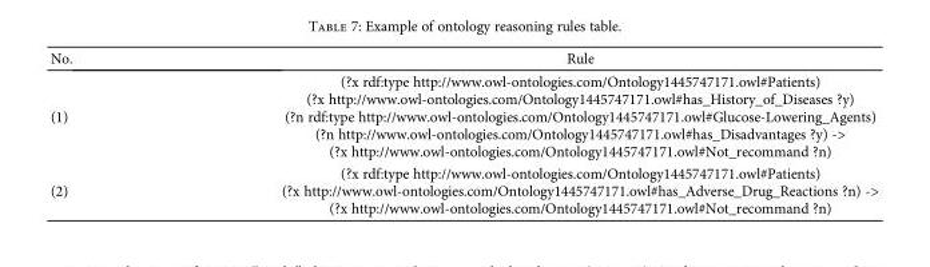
<table><thead><tr><td>No.</td><td>Rule</td></tr></thead><tbody><tr><td>(1)</td><td>(?x rdf:type http://www.owl-ontologies.com/Ontology1445747171.owl#Patients) (?x http://www.owl-ontologies.com/Ontology1445747171.owl#has_History_of_Diseases ?y) (?n rdf:type http://www.owl-ontologies.com/Ontology1445747171.owl#Glucose-Lowering_Agents) (?n http://www.owl-ontologies.com/Ontology1445747171.owl#has_Disadvantages ?y) -&gt; (?x http://www.owl-ontologies.com/Ontology1445747171.owl#Not_recommand ?n)</td></tr><tr><td>(2)</td><td>(?x rdf:type http://www.owl-ontologies.com/Ontology1445747171.owl#Patients) (?x http://www.owl-ontologies.com/Ontology1445747171.owl#has_Adverse_Drug_Reactions ?n) -&gt; (?x http://www.owl-ontologies.com/Ontology1445747171.owl#Not_recommand ?n)</td></tr></tbody></table>